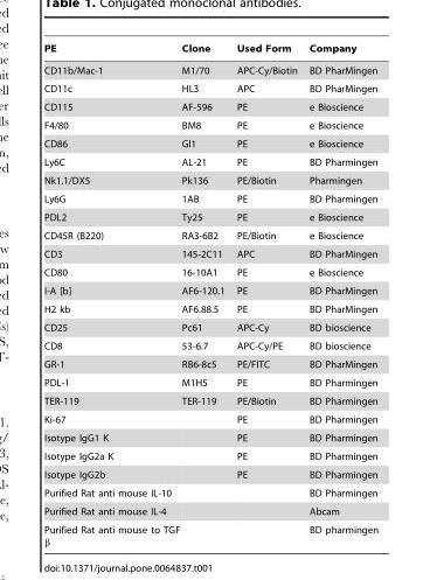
<table><thead><tr><td>PE</td><td>Clone</td><td>Used Form</td><td>Company</td></tr></thead><tbody><tr><td>CD11b/Mac-1</td><td>M1/70</td><td>APC-Cy/Biotin</td><td>BD PharMingen</td></tr><tr><td>CD11c</td><td>HL3</td><td>APC</td><td>BD PharMingen</td></tr><tr><td>CD115</td><td>AF-596</td><td>PE</td><td>e Bioscience</td></tr><tr><td>F4/80</td><td>BM8</td><td>PE</td><td>e Bioscience</td></tr><tr><td>CD86</td><td>Gl1</td><td>PE</td><td>e Bioscience</td></tr><tr><td>Ly6C</td><td>AL-21</td><td>PE</td><td>BD Pharmingen</td></tr><tr><td>Nk1.1/DX5</td><td>Pk136</td><td>PE/Biotin</td><td>Pharmingen</td></tr><tr><td>Ly6G</td><td>1AB</td><td>PE</td><td>BD Pharmingen</td></tr><tr><td>PDL2</td><td>Ty25</td><td>PE</td><td>e Bioscience</td></tr><tr><td>CD45R (B220)</td><td>RA3-6B2</td><td>PE/Biotin</td><td>e Bioscience</td></tr><tr><td>CD3</td><td>145-2C11</td><td>APC</td><td>BD PharMingen</td></tr><tr><td>CD80</td><td>16-10A1</td><td>PE</td><td>e Bioscience</td></tr><tr><td>I-A [b]</td><td>AF6-120.1</td><td>PE</td><td>BD PharMingen</td></tr><tr><td>H2 kb</td><td>AF6.88.5</td><td>PE</td><td>BD PharMingen</td></tr><tr><td>CD25</td><td>Pc61</td><td>APC-Cy</td><td>BD bioscience</td></tr><tr><td>CD8</td><td>53-6.7</td><td>APC-Cy/PE</td><td>BD bioscience</td></tr><tr><td>GR-1</td><td>RB6-8c5</td><td>PE/FITC</td><td>BD PharMingen</td></tr><tr><td>PDL-1</td><td>M1H5</td><td>PE</td><td>BD Pharmingen</td></tr><tr><td>TER-119</td><td>TER-119</td><td>PE/Biotin</td><td>BD Pharmingen</td></tr><tr><td>Ki-67</td><td></td><td>PE</td><td>BD Pharmingen</td></tr><tr><td>Isotype IgG1 K</td><td></td><td>PE</td><td>BD Pharmingen</td></tr><tr><td>Isotype IgG2a K</td><td></td><td>PE</td><td>BD Pharmingen</td></tr><tr><td>Isotype IgG2b</td><td></td><td>PE</td><td>BD Pharmingen</td></tr><tr><td>Purified Rat anti mouse IL-10</td><td></td><td></td><td>BD Pharmingen</td></tr><tr><td>Purified Rat anti mouse IL-4</td><td></td><td></td><td>Abcam</td></tr><tr><td>Purified Rat anti mouse to TGF</td><td></td><td></td><td>BD pharmingen</td></tr></tbody></table>